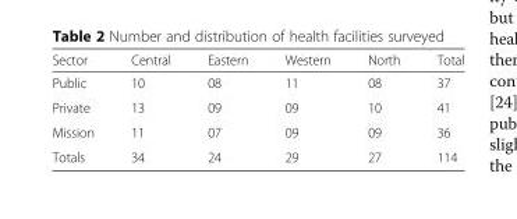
<table><thead><tr><td>Sector</td><td>Central</td><td>Eastern</td><td>Western</td><td>North</td><td>Total</td></tr></thead><tbody><tr><td>Public</td><td>10</td><td>08</td><td>11</td><td>08</td><td>37</td></tr><tr><td>Private</td><td>13</td><td>09</td><td>09</td><td>10</td><td>41</td></tr><tr><td>Mission</td><td>11</td><td>07</td><td>09</td><td>09</td><td>36</td></tr><tr><td>Totals</td><td>34</td><td>24</td><td>29</td><td>27</td><td>114</td></tr></tbody></table>